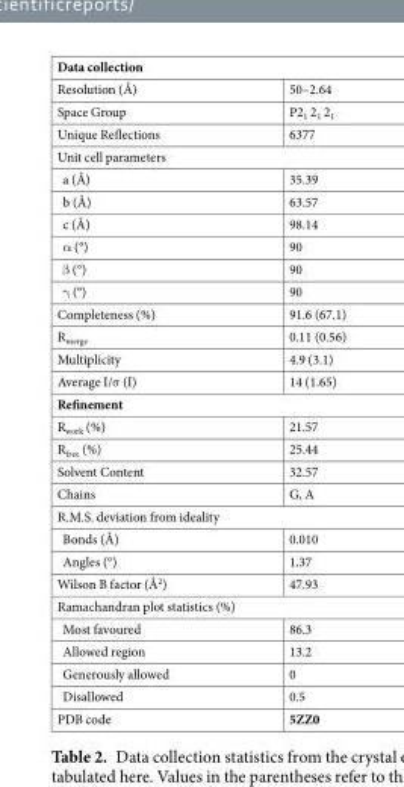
<table><tbody><tr><td colspan="2">Data collection</td></tr><tr><td>Resolution (Å)</td><td>50–2.64</td></tr><tr><td>Space Group</td><td>P2<sub>1</sub> 2<sub>1</sub> 2<sub>1</sub></td></tr><tr><td>Unique Reflections</td><td>6377</td></tr><tr><td colspan="2">Unit cell parameters</td></tr><tr><td>a (Å)</td><td>35.39</td></tr><tr><td>b (Å)</td><td>63.57</td></tr><tr><td>c (Å)</td><td>98.14</td></tr><tr><td>α (°)</td><td>90</td></tr><tr><td>β (°)</td><td>90</td></tr><tr><td>γ (°)</td><td>90</td></tr><tr><td>Completeness (%)</td><td>91.6 (67.1)</td></tr><tr><td>R<sub>merge</sub></td><td>0.11 (0.56)</td></tr><tr><td>Multiplicity</td><td>4.9 (3.1)</td></tr><tr><td>Average I/σ (I)</td><td>14 (1.65)</td></tr><tr><td colspan="2">Refinement</td></tr><tr><td>R<sub>work</sub> (%)</td><td>21.57</td></tr><tr><td>R<sub>free</sub> (%)</td><td>25.44</td></tr><tr><td>Solvent Content</td><td>32.57</td></tr><tr><td>Chains</td><td>G, A</td></tr><tr><td colspan="2">R.M.S. deviation from ideality</td></tr><tr><td>Bonds (Å)</td><td>0.010</td></tr><tr><td>Angles (°)</td><td>1.37</td></tr><tr><td>Wilson B factor (Å<sup>2</sup>)</td><td>47.93</td></tr><tr><td colspan="2">Ramachandran plot statistics (%)</td></tr><tr><td>Most favoured</td><td>86.3</td></tr><tr><td>Allowed region</td><td>13.2</td></tr><tr><td>Generously allowed</td><td>0</td></tr><tr><td>Disallowed</td><td>0.5</td></tr><tr><td>PDB code</td><td>5ZZ0</td></tr></tbody></table>